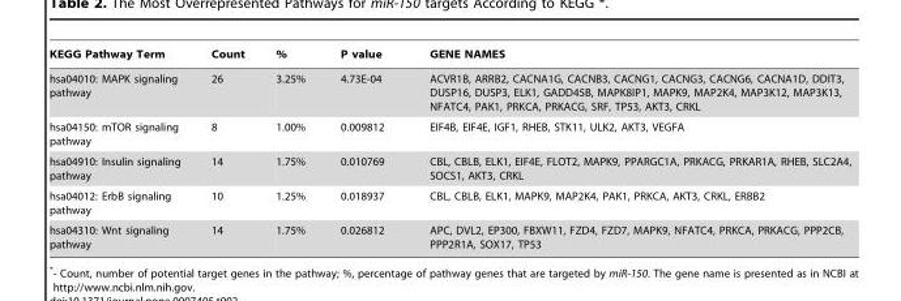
<table><thead><tr><td>KEGG Pathway Term</td><td>Count</td><td>%</td><td>P value</td><td>GENE NAMES</td></tr></thead><tbody><tr><td>hsa04010: MAPK signaling pathway</td><td>26</td><td>3.25%</td><td>4.73E-04</td><td>ACVR1B, ARRB2, CACNA1G, CACNB3, CACNG1, CACNG3, CACNG6, CACNA1D, DDIT3, DUSP16, DUSP3, ELK1, GADD45B, MAPK8IP1, MAPK9, MAP2K4, MAP3K12, MAP3K13, NFATC4, PAK1, PRKCA, PRKACG, SRF, TP53, AKT3, CRKL</td></tr><tr><td>hsa04150: mTOR signaling pathway</td><td>8</td><td>1.00%</td><td>0.009812</td><td>EIF4B, EIF4E, IGF1, RHEB, STK11, ULK2, AKT3, VEGFA</td></tr><tr><td>hsa04910: Insulin signaling pathway</td><td>14</td><td>1.75%</td><td>0.010769</td><td>CBL, CBLB, ELK1, EIF4E, FLOT2, MAPK9, PPARGC1A, PRKACG, PRKAR1A, RHEB, SLC2A4, SOCS1, AKT3, CRKL</td></tr><tr><td>hsa04012: ErbB signaling pathway</td><td>10</td><td>1.25%</td><td>0.018937</td><td>CBL, CBLB, ELK1, MAPK9, MAP2K4, PAK1, PRKCA, AKT3, CRKL, ERBB2</td></tr><tr><td>hsa04310: Wnt signaling pathway</td><td>14</td><td>1.75%</td><td>0.026812</td><td>APC, DVL2, EP300, FBXW11, FZD4, FZD7, MAPK9, NFATC4, PRKCA, PRKACG, PPP2CB, PPP2R1A, SOX17, TP53</td></tr></tbody></table>